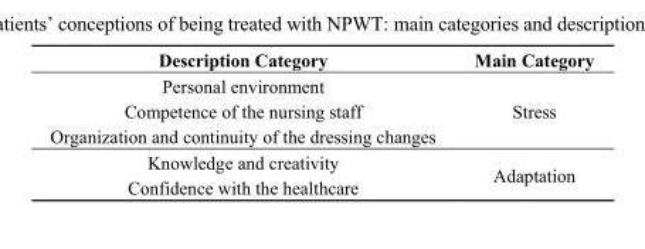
<table><thead><tr><td>Description Category</td><td>Main Category</td></tr></thead><tbody><tr><td>Personal environment</td><td rowspan="3">Stress</td></tr><tr><td>Competence of the nursing staff</td></tr><tr><td>Organization and continuity of the dressing changes</td></tr><tr><td>Knowledge and creativity</td><td rowspan="2">Adaptation</td></tr><tr><td>Confidence with the healthcare</td></tr></tbody></table>